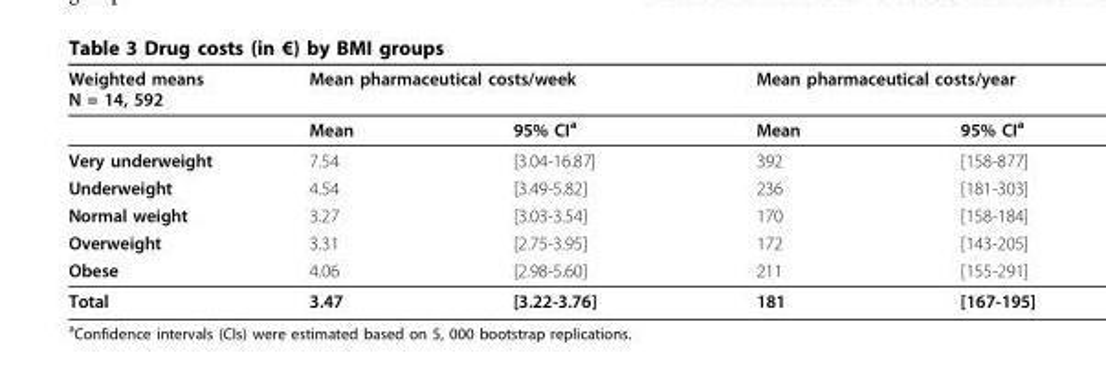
<table><thead><tr><td rowspan="2">Weighted means N = 14, 592</td><td colspan="2">Mean pharmaceutical costs/week</td><td colspan="2">Mean pharmaceutical costs/year</td></tr><tr><td>Mean</td><td>95% CI<sup>a</sup></td><td>Mean</td><td>95% CI<sup>a</sup></td></tr></thead><tbody><tr><td>Very underweight</td><td>7.54</td><td>[3.04-16.87]</td><td>392</td><td>[158-877]</td></tr><tr><td>Underweight</td><td>4.54</td><td>[3.49-5.82]</td><td>236</td><td>[181-303]</td></tr><tr><td>Normal weight</td><td>3.27</td><td>[3.03-3.54]</td><td>170</td><td>[158-184]</td></tr><tr><td>Overweight</td><td>3.31</td><td>[2.75-3.95]</td><td>172</td><td>[143-205]</td></tr><tr><td>Obese</td><td>4.06</td><td>[2.98-5.60]</td><td>211</td><td>[155-291]</td></tr><tr><td>Total</td><td>3.47</td><td>[3.22-3.76]</td><td>181</td><td>[167-195]</td></tr></tbody></table>